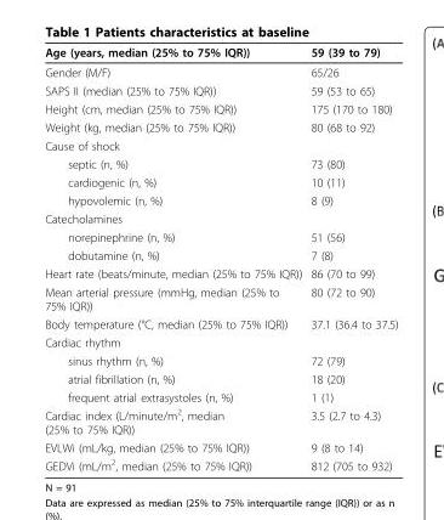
<table><thead><tr><td>Age (years, median (25% to 75% IQR))</td><td>59 (39 to 79)</td></tr></thead><tbody><tr><td>Gender (M/F)</td><td>65/26</td></tr><tr><td>SAPS II (median (25% to 75% IQR))</td><td>59 (53 to 65)</td></tr><tr><td>Height (cm, median (25% to 75% IQR))</td><td>175 (170 to 180)</td></tr><tr><td>Weight (kg, median (25% to 75% IQR))</td><td>80 (68 to 92)</td></tr><tr><td colspan="2">Cause of shock</td></tr><tr><td>septic (n, %)</td><td>73 (80)</td></tr><tr><td>cardiogenic (n, %)</td><td>10 (11)</td></tr><tr><td>hypovolemic (n, %)</td><td>8 (9)</td></tr><tr><td colspan="2">Catecholamines</td></tr><tr><td>norepinephrine (n, %)</td><td>51 (56)</td></tr><tr><td>dobutamine (n, %)</td><td>7 (8)</td></tr><tr><td>Heart rate (beats/minute, median (25% to 75% IQR))</td><td>86 (70 to 99)</td></tr><tr><td>Mean arterial pressure (mmHg, median (25% to 75% IQR))</td><td>80 (72 to 90)</td></tr><tr><td>Body temperature (°C, median (25% to 75% IQR))</td><td>37.1 (36.4 to 37.5)</td></tr><tr><td colspan="2">Cardiac rhythm</td></tr><tr><td>sinus rhythm (n, %)</td><td>72 (79)</td></tr><tr><td>atrial fibrillation (n, %)</td><td>18 (20)</td></tr><tr><td>frequent atrial extrasystoles (n, %)</td><td>1 (1)</td></tr><tr><td>Cardiac index (L/minute/m<sup>2</sup>, median (25% to 75% IQR))</td><td>3.5 (2.7 to 4.3)</td></tr><tr><td>EVLWi (mL/kg, median (25% to 75% IQR))</td><td>9 (8 to 14)</td></tr><tr><td>GEDVi (mL/m<sup>2</sup>, median (25% to 75% IQR))</td><td>812 (705 to 932)</td></tr></tbody></table>